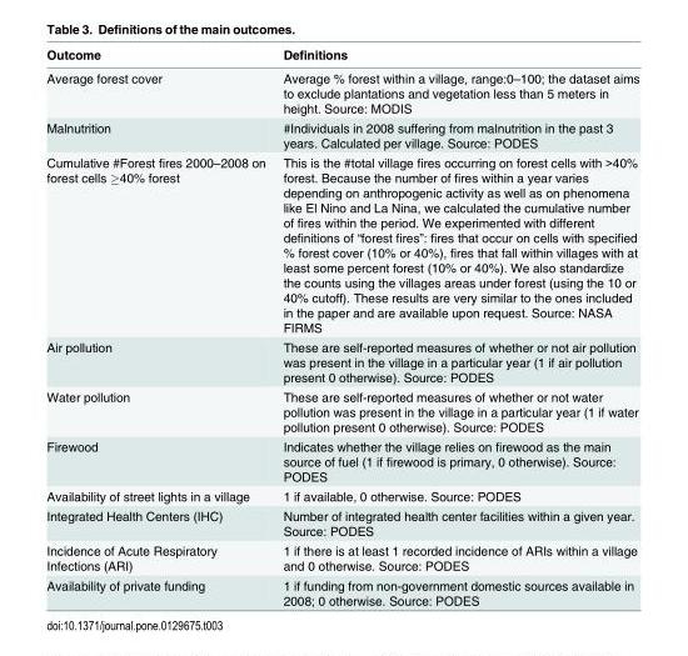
<table><thead><tr><td>Outcome</td><td>Definitions</td></tr></thead><tbody><tr><td>Average forest cover</td><td>Average % forest within a village, range:0–100; the dataset aims to exclude plantations and vegetation less than 5 meters in height. Source: MODIS</td></tr><tr><td>Malnutrition</td><td>#Individuals in 2008 suffering from malnutrition in the past 3 years. Calculated per village. Source: PODES</td></tr><tr><td>Cumulative #Forest fires 2000–2008 on forest cells ≥40% forest</td><td>This is the #total village fires occurring on forest cells with &gt;40% forest. Because the number of fires within a year varies depending on anthropogenic activity as well as on phenomena like El Nino and La Nina, we calculated the cumulative number of fires within the period. We experimented with different definitions of “forest fires”: fires that occur on cells with specified % forest cover (10% or 40%), fires that fall within villages with at least some percent forest (10% or 40%). We also standardize the counts using the villages areas under forest (using the 10 or 40% cutoff). These results are very similar to the ones included in the paper and are available upon request. Source: NASA FIRMS</td></tr><tr><td>Air pollution</td><td>These are self-reported measures of whether or not air pollution was present in the village in a particular year (1 if air pollution present 0 otherwise). Source: PODES</td></tr><tr><td>Water pollution</td><td>These are self-reported measures of whether or not water pollution was present in the village in a particular year (1 if water pollution present 0 otherwise). Source: PODES</td></tr><tr><td>Firewood</td><td>Indicates whether the village relies on firewood as the main source of fuel (1 if firewood is primary, 0 otherwise). Source: PODES</td></tr><tr><td>Availability of street lights in a village</td><td>1 if available, 0 otherwise. Source: PODES</td></tr><tr><td>Integrated Health Centers (IHC)</td><td>Number of integrated health center facilities within a given year. Source: PODES</td></tr><tr><td>Incidence of Acute Respiratory Infections (ARI)</td><td>1 if there is at least 1 recorded incidence of ARIs within a village and 0 otherwise. Source: PODES</td></tr><tr><td>Availability of private funding</td><td>1 if funding from non-government domestic sources available in 2008; 0 otherwise. Source: PODES</td></tr></tbody></table>